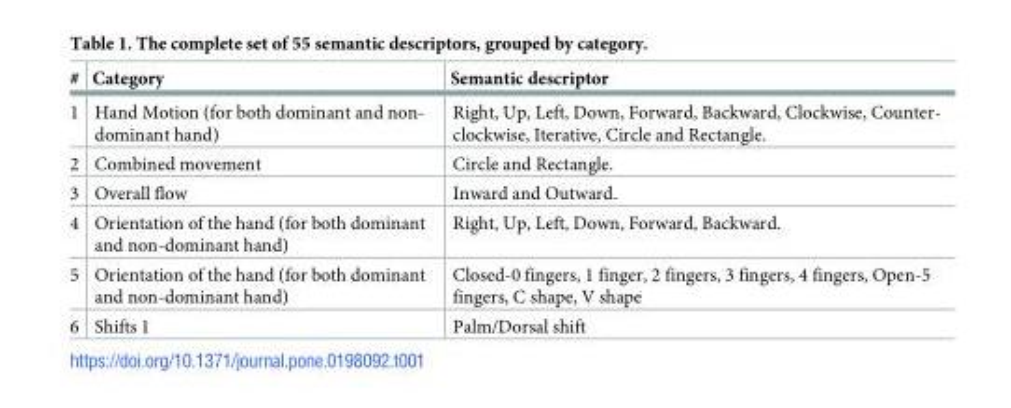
<table><thead><tr><td>#</td><td>Category</td><td>Semantic descriptor</td></tr></thead><tbody><tr><td>1</td><td>Hand Motion (for both dominant and non- dominant hand)</td><td>Right, Up, Left, Down, Forward, Backward, Clockwise, Counter- clockwise, Iterative, Circle and Rectangle.</td></tr><tr><td>2</td><td>Combined movement</td><td>Circle and Rectangle.</td></tr><tr><td>3</td><td>Overall flow</td><td>Inward and Outward.</td></tr><tr><td>4</td><td>Orientation of the hand (for both dominant and non-dominant hand)</td><td>Right, Up, Left, Down, Forward, Backward.</td></tr><tr><td>5</td><td>Orientation of the hand (for both dominant and non-dominant hand)</td><td>Closed-0 fingers, 1 finger, 2 fingers, 3 fingers, 4 fingers, Open-5 fingers, C shape, V shape</td></tr><tr><td>6</td><td>Shifts 1</td><td>Palm/Dorsal shift</td></tr></tbody></table>